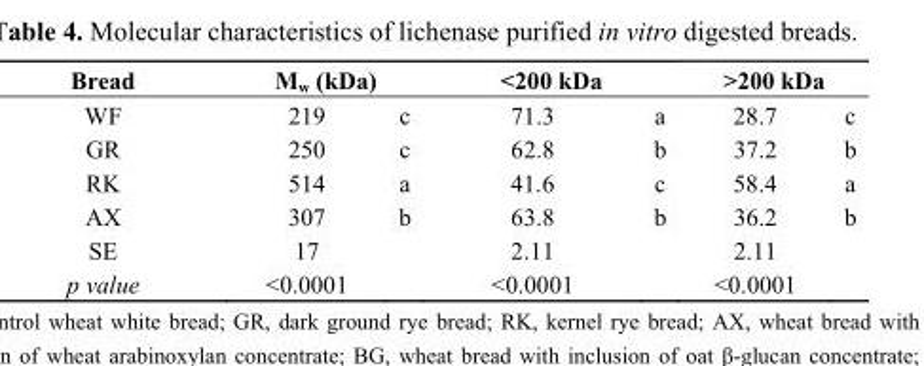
<table><thead><tr><td>Bread</td><td>M<sub>w</sub> (kDa)</td><td></td><td>&lt;200 kDa</td><td></td><td>&gt;200 kDa</td><td></td></tr></thead><tbody><tr><td>WF</td><td>219</td><td>c</td><td>71.3</td><td>a</td><td>28.7</td><td>c</td></tr><tr><td>GR</td><td>250</td><td>c</td><td>62.8</td><td>b</td><td>37.2</td><td>b</td></tr><tr><td>RK</td><td>514</td><td>a</td><td>41.6</td><td>c</td><td>58.4</td><td>a</td></tr><tr><td>AX</td><td>307</td><td>b</td><td>63.8</td><td>b</td><td>36.2</td><td>b</td></tr><tr><td>SE</td><td>17</td><td></td><td>2.11</td><td></td><td>2.11</td><td></td></tr><tr><td>p value</td><td>&lt;0.0001</td><td></td><td>&lt;0.0001</td><td></td><td>&lt;0.0001</td><td></td></tr></tbody></table>